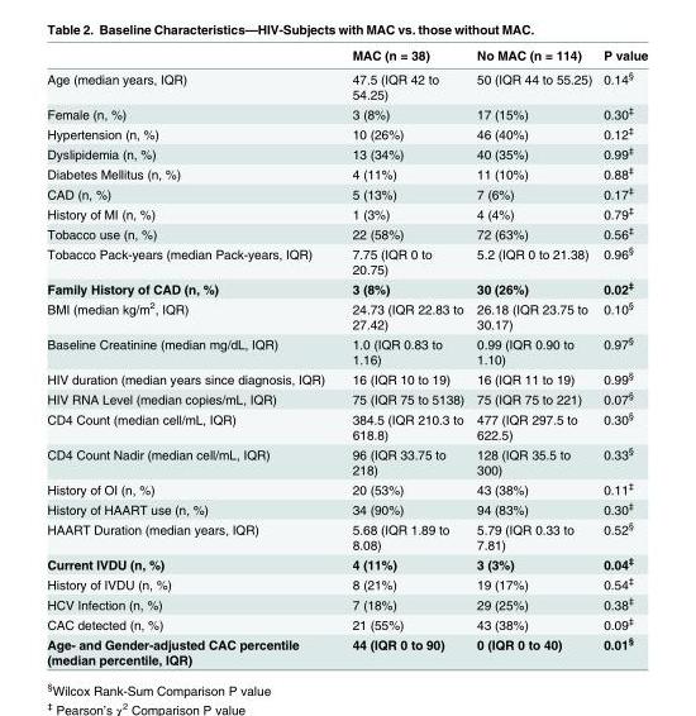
<table><thead><tr><td></td><td>MAC (n = 38)</td><td>No MAC (n = 114)</td><td>P value</td></tr></thead><tbody><tr><td>Age (median years, IQR)</td><td>47.5 (IQR 42 to 54.25)</td><td>50 (IQR 44 to 55.25)</td><td>0.14<sup>§</sup></td></tr><tr><td>Female (n, %)</td><td>3 (8%)</td><td>17 (15%)</td><td>0.30<sup>‡</sup></td></tr><tr><td>Hypertension (n, %)</td><td>10 (26%)</td><td>46 (40%)</td><td>0.12<sup>‡</sup></td></tr><tr><td>Dyslipidemia (n, %)</td><td>13 (34%)</td><td>40 (35%)</td><td>0.99<sup>‡</sup></td></tr><tr><td>Diabetes Mellitus (n, %)</td><td>4 (11%)</td><td>11 (10%)</td><td>0.88<sup>‡</sup></td></tr><tr><td>CAD (n, %)</td><td>5 (13%)</td><td>7 (6%)</td><td>0.17<sup>‡</sup></td></tr><tr><td>History of MI (n, %)</td><td>1 (3%)</td><td>4 (4%)</td><td>0.79<sup>‡</sup></td></tr><tr><td>Tobacco use (n, %)</td><td>22 (58%)</td><td>72 (63%)</td><td>0.56<sup>‡</sup></td></tr><tr><td>Tobacco Pack-years (median Pack-years, IQR)</td><td>7.75 (IQR 0 to 20.75)</td><td>5.2 (IQR 0 to 21.38)</td><td>0.96<sup>§</sup></td></tr><tr><td>Family History of CAD (n, %)</td><td>3 (8%)</td><td>30 (26%)</td><td>0.02<sup>‡</sup></td></tr><tr><td>BMI (median kg/m<sup>2</sup>, IQR)</td><td>24.73 (IQR 22.83 to 27.42)</td><td>26.18 (IQR 23.75 to 30.17)</td><td>0.10<sup>§</sup></td></tr><tr><td>Baseline Creatinine (median mg/dL, IQR)</td><td>1.0 (IQR 0.83 to 1.16)</td><td>0.99 (IQR 0.90 to 1.10)</td><td>0.97<sup>§</sup></td></tr><tr><td>HIV duration (median years since diagnosis, IQR)</td><td>16 (IQR 10 to 19)</td><td>16 (IQR 11 to 19)</td><td>0.99<sup>§</sup></td></tr><tr><td>HIV RNA Level (median copies/mL, IQR)</td><td>75 (IQR 75 to 5138)</td><td>75 (IQR 75 to 221)</td><td>0.07<sup>§</sup></td></tr><tr><td>CD4 Count (median cell/mL, IQR)</td><td>384.5 (IQR 210.3 to 618.8)</td><td>477 (IQR 297.5 to 622.5)</td><td>0.30<sup>§</sup></td></tr><tr><td>CD4 Count Nadir (median cell/mL, IQR)</td><td>96 (IQR 33.75 to 218)</td><td>128 (IQR 35.5 to 300)</td><td>0.33<sup>§</sup></td></tr><tr><td>History of OI (n, %)</td><td>20 (53%)</td><td>43 (38%)</td><td>0.11<sup>‡</sup></td></tr><tr><td>History of HAART use (n, %)</td><td>34 (90%)</td><td>94 (83%)</td><td>0.30<sup>‡</sup></td></tr><tr><td>HAART Duration (median years, IQR)</td><td>5.68 (IQR 1.89 to 8.08)</td><td>5.79 (IQR 0.33 to 7.81)</td><td>0.52<sup>§</sup></td></tr><tr><td>Current IVDU (n, %)</td><td>4 (11%)</td><td>3 (3%)</td><td>0.04<sup>‡</sup></td></tr><tr><td>History of IVDU (n, %)</td><td>8 (21%)</td><td>19 (17%)</td><td>0.54<sup>‡</sup></td></tr><tr><td>HCV Infection (n, %)</td><td>7 (18%)</td><td>29 (25%)</td><td>0.38<sup>‡</sup></td></tr><tr><td>CAC detected (n, %)</td><td>21 (55%)</td><td>43 (38%)</td><td>0.09<sup>‡</sup></td></tr><tr><td>Age- and Gender-adjusted CAC percentile (median percentile, IQR)</td><td>44 (IQR 0 to 90)</td><td>0 (IQR 0 to 40)</td><td>0.01<sup>§</sup></td></tr></tbody></table>